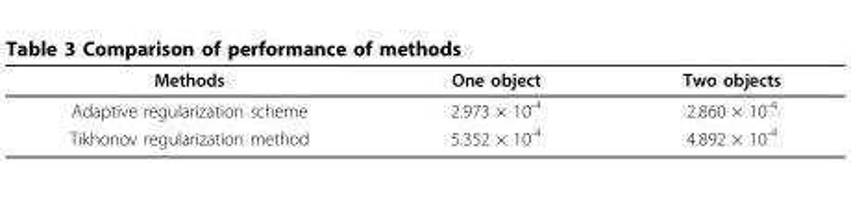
<table><thead><tr><td>Methods</td><td>One object</td><td>Two objects</td></tr></thead><tbody><tr><td>Adaptive regularization scheme</td><td>2.973 × 10<sup>-4</sup></td><td>2.860 × 10<sup>-4</sup></td></tr><tr><td>Tikhonov regularization method</td><td>5.352 × 10<sup>-4</sup></td><td>4.892 × 10<sup>-4</sup></td></tr></tbody></table>